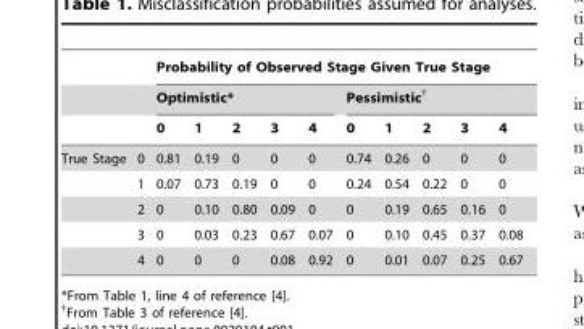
<table><thead><tr><td rowspan="3"></td><td rowspan="3"></td><td colspan="10">Probability of Observed Stage Given True Stage</td></tr><tr><td colspan="5">Optimistic*</td><td colspan="5">Pessimistic†</td></tr><tr><td>0</td><td>1</td><td>2</td><td>3</td><td>4</td><td>0</td><td>1</td><td>2</td><td>3</td><td>4</td></tr></thead><tbody><tr><td rowspan="5">True Stage</td><td>0</td><td>0.81</td><td>0.19</td><td>0</td><td>0</td><td>0</td><td>0.74</td><td>0.26</td><td>0</td><td>0</td><td>0</td></tr><tr><td>1</td><td>0.07</td><td>0.73</td><td>0.19</td><td>0</td><td>0</td><td>0.24</td><td>0.54</td><td>0.22</td><td>0</td><td>0</td></tr><tr><td>2</td><td>0</td><td>0.10</td><td>0.80</td><td>0.09</td><td>0</td><td>0</td><td>0.19</td><td>0.65</td><td>0.16</td><td>0</td></tr><tr><td>3</td><td>0</td><td>0.03</td><td>0.23</td><td>0.67</td><td>0.07</td><td>0</td><td>0.10</td><td>0.45</td><td>0.37</td><td>0.08</td></tr><tr><td>4</td><td>0</td><td>0</td><td>0</td><td>0.08</td><td>0.92</td><td>0</td><td>0.01</td><td>0.07</td><td>0.25</td><td>0.67</td></tr></tbody></table>